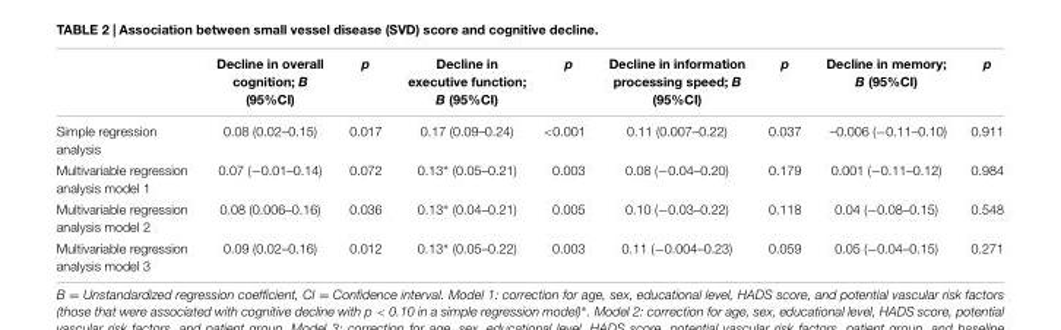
<table><thead><tr><td></td><td>Decline in overall cognition; B (95%CI)</td><td>p</td><td>Decline in executive function; B (95%CI)</td><td>p</td><td>Decline in information processing speed; B (95%CI)</td><td>p</td><td>Decline in memory; B (95%CI)</td><td>p</td></tr></thead><tbody><tr><td>Simple regression analysis</td><td>0.08 (0.02–0.15)</td><td>0.017</td><td>0.17 (0.09–0.24)</td><td>&lt;0.001</td><td>0.11 (0.007–0.22)</td><td>0.037</td><td>–0.006 (−0.11–0.10)</td><td>0.911</td></tr><tr><td>Multivariable regression analysis model 1</td><td>0.07 (−0.01–0.14)</td><td>0.072</td><td>0.13∗ (0.05–0.21)</td><td>0.003</td><td>0.08 (−0.04–0.20)</td><td>0.179</td><td>0.001 (−0.11–0.12)</td><td>0.984</td></tr><tr><td>Multivariable regression analysis model 2</td><td>0.08 (0.006–0.16)</td><td>0.036</td><td>0.13∗ (0.04–0.21)</td><td>0.005</td><td>0.10 (−0.03–0.22)</td><td>0.118</td><td>0.04 (−0.08–0.15)</td><td>0.548</td></tr><tr><td>Multivariable regression analysis model 3</td><td>0.09 (0.02–0.16)</td><td>0.012</td><td>0.13∗ (0.05–0.22)</td><td>0.003</td><td>0.11 (−0.004–0.23)</td><td>0.059</td><td>0.05 (−0.04–0.15)</td><td>0.271</td></tr></tbody></table>